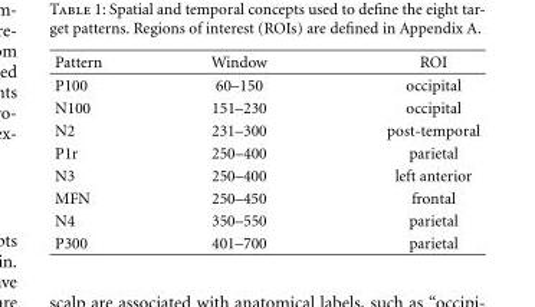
<table><thead><tr><td>Pattern</td><td>Window</td><td>ROI</td></tr></thead><tbody><tr><td>P100</td><td>60–150</td><td>occipital</td></tr><tr><td>N100</td><td>151–230</td><td>occipital</td></tr><tr><td>N2</td><td>231–300</td><td>post-temporal</td></tr><tr><td>P1r</td><td>250–400</td><td>parietal</td></tr><tr><td>N3</td><td>250–400</td><td>left anterior</td></tr><tr><td>MFN</td><td>250–450</td><td>frontal</td></tr><tr><td>N4</td><td>350–550</td><td>parietal</td></tr><tr><td>P300</td><td>401–700</td><td>parietal</td></tr></tbody></table>